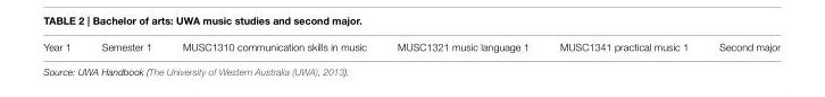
<table><tbody><tr><td>Year 1</td><td>Semester 1</td><td>MUSC1310 communication skills in music</td><td>MUSC1321 music language 1</td><td>MUSC1341 practical music 1</td><td>Second major</td></tr></tbody></table>